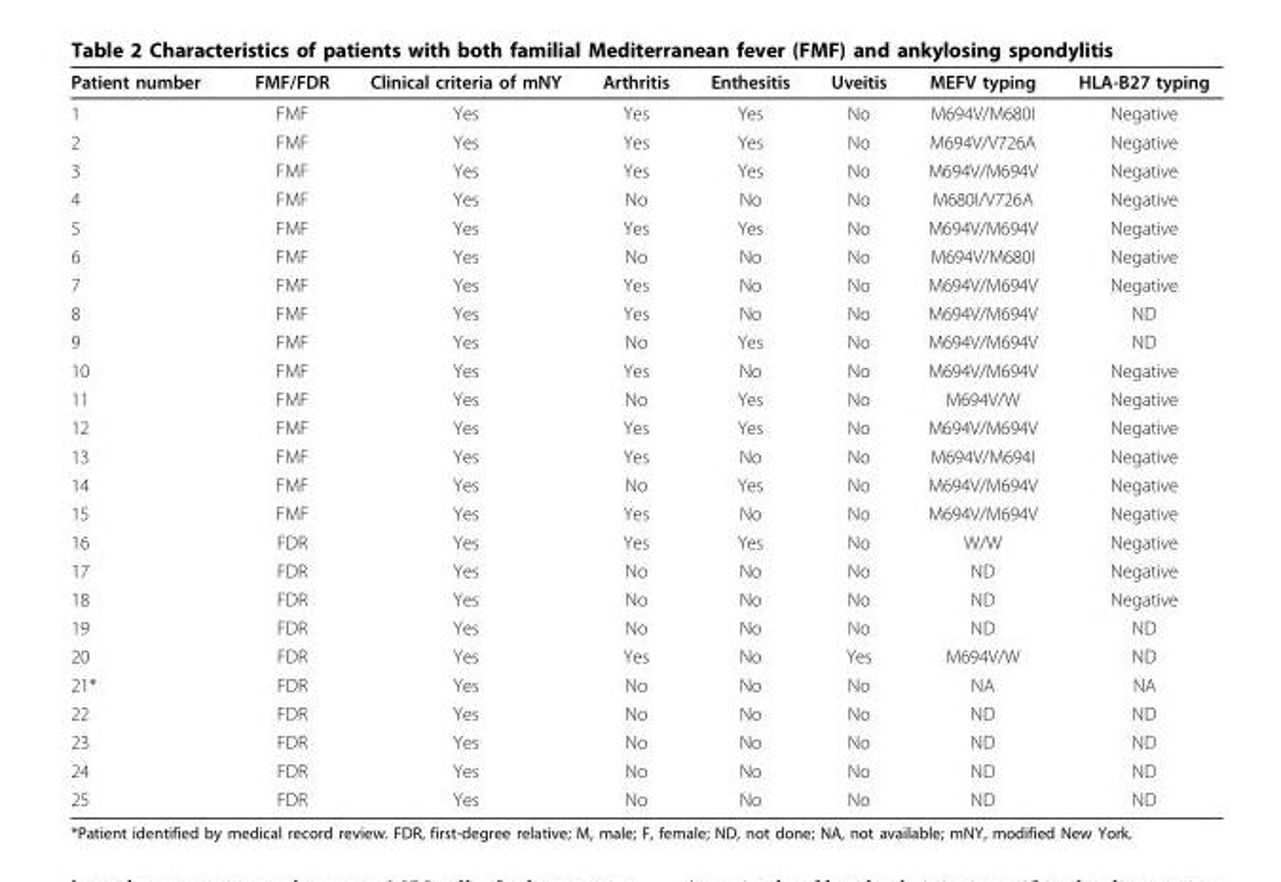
<table><thead><tr><td>Patient number</td><td>FMF/FDR</td><td>Clinical criteria of mNY</td><td>Arthritis</td><td>Enthesitis</td><td>Uveitis</td><td>MEFV typing</td><td>HLA-B27 typing</td></tr></thead><tbody><tr><td>1</td><td>FMF</td><td>Yes</td><td>Yes</td><td>Yes</td><td>No</td><td>M694V/M680I</td><td>Negative</td></tr><tr><td>2</td><td>FMF</td><td>Yes</td><td>Yes</td><td>Yes</td><td>No</td><td>M694V/V726A</td><td>Negative</td></tr><tr><td>3</td><td>FMF</td><td>Yes</td><td>Yes</td><td>Yes</td><td>No</td><td>M694V/M694V</td><td>Negative</td></tr><tr><td>4</td><td>FMF</td><td>Yes</td><td>No</td><td>No</td><td>No</td><td>M680I/V726A</td><td>Negative</td></tr><tr><td>5</td><td>FMF</td><td>Yes</td><td>Yes</td><td>Yes</td><td>No</td><td>M694V/M694V</td><td>Negative</td></tr><tr><td>6</td><td>FMF</td><td>Yes</td><td>No</td><td>No</td><td>No</td><td>M694V/M680I</td><td>Negative</td></tr><tr><td>7</td><td>FMF</td><td>Yes</td><td>Yes</td><td>No</td><td>No</td><td>M694V/M694V</td><td>Negative</td></tr><tr><td>8</td><td>FMF</td><td>Yes</td><td>Yes</td><td>No</td><td>No</td><td>M694V/M694V</td><td>ND</td></tr><tr><td>9</td><td>FMF</td><td>Yes</td><td>No</td><td>Yes</td><td>No</td><td>M694V/M694V</td><td>ND</td></tr><tr><td>10</td><td>FMF</td><td>Yes</td><td>Yes</td><td>No</td><td>No</td><td>M694V/M694V</td><td>Negative</td></tr><tr><td>11</td><td>FMF</td><td>Yes</td><td>No</td><td>Yes</td><td>No</td><td>M694V/W</td><td>Negative</td></tr><tr><td>12</td><td>FMF</td><td>Yes</td><td>Yes</td><td>Yes</td><td>No</td><td>M694V/M694V</td><td>Negative</td></tr><tr><td>13</td><td>FMF</td><td>Yes</td><td>Yes</td><td>No</td><td>No</td><td>M694V/M694I</td><td>Negative</td></tr><tr><td>14</td><td>FMF</td><td>Yes</td><td>No</td><td>Yes</td><td>No</td><td>M694V/M694V</td><td>Negative</td></tr><tr><td>15</td><td>FMF</td><td>Yes</td><td>Yes</td><td>No</td><td>No</td><td>M694V/M694V</td><td>Negative</td></tr><tr><td>16</td><td>FDR</td><td>Yes</td><td>Yes</td><td>Yes</td><td>No</td><td>W/W</td><td>Negative</td></tr><tr><td>17</td><td>FDR</td><td>Yes</td><td>No</td><td>No</td><td>No</td><td>ND</td><td>Negative</td></tr><tr><td>18</td><td>FDR</td><td>Yes</td><td>No</td><td>No</td><td>No</td><td>ND</td><td>Negative</td></tr><tr><td>19</td><td>FDR</td><td>Yes</td><td>No</td><td>No</td><td>No</td><td>ND</td><td>ND</td></tr><tr><td>20</td><td>FDR</td><td>Yes</td><td>Yes</td><td>No</td><td>Yes</td><td>M694V/W</td><td>ND</td></tr><tr><td>21*</td><td>FDR</td><td>Yes</td><td>No</td><td>No</td><td>No</td><td>NA</td><td>NA</td></tr><tr><td>22</td><td>FDR</td><td>Yes</td><td>No</td><td>No</td><td>No</td><td>ND</td><td>ND</td></tr><tr><td>23</td><td>FDR</td><td>Yes</td><td>No</td><td>No</td><td>No</td><td>ND</td><td>ND</td></tr><tr><td>24</td><td>FDR</td><td>Yes</td><td>No</td><td>No</td><td>No</td><td>ND</td><td>ND</td></tr><tr><td>25</td><td>FDR</td><td>Yes</td><td>No</td><td>No</td><td>No</td><td>ND</td><td>ND</td></tr></tbody></table>